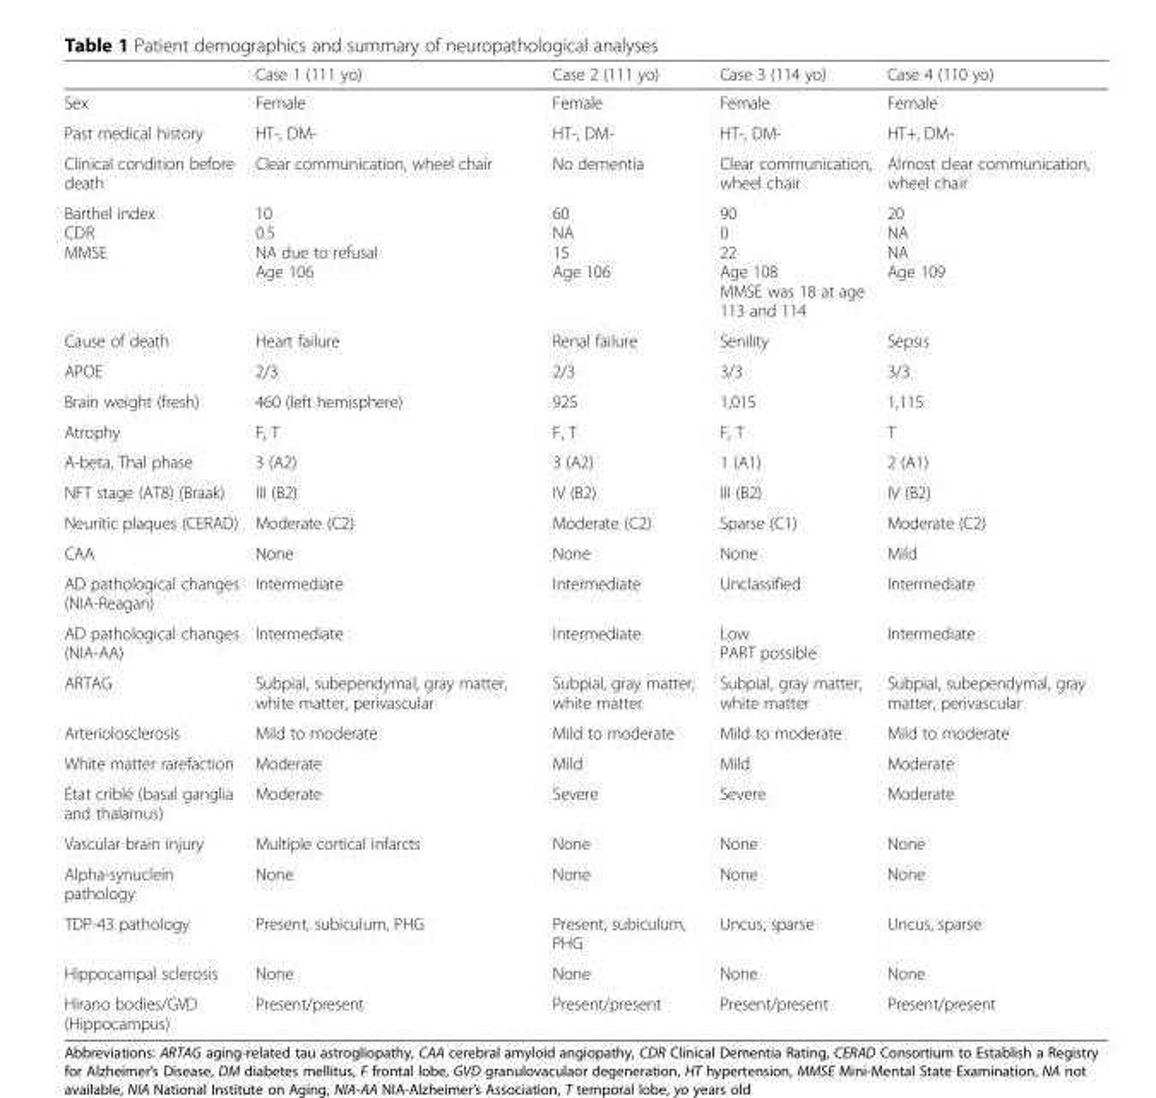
<table><thead><tr><td></td><td>Case 1 (111 yo)</td><td>Case 2 (111 yo)</td><td>Case 3 (114 yo)</td><td>Case 4 (110 yo)</td></tr></thead><tbody><tr><td>Sex</td><td>Female</td><td>Female</td><td>Female</td><td>Female</td></tr><tr><td>Past medical history</td><td>HT-, DM-</td><td>HT-, DM-</td><td>HT-, DM-</td><td>HT+, DM-</td></tr><tr><td>Clinical condition before death</td><td>Clear communication, wheel chair</td><td>No dementia</td><td>Clear communication, wheel chair</td><td>Almost clear communication, wheel chair</td></tr><tr><td>Barthel index CDR MMSE</td><td>10 0.5 NA due to refusal Age 106</td><td>60 NA 15 Age 106</td><td>90 0 22 Age 108 MMSE was 18 at age 113 and 114</td><td>20 NA NA Age 109</td></tr><tr><td>Cause of death</td><td>Heart failure</td><td>Renal failure</td><td>Senility</td><td>Sepsis</td></tr><tr><td>APOE</td><td>2/3</td><td>2/3</td><td>3/3</td><td>3/3</td></tr><tr><td>Brain weight (fresh)</td><td>460 (left hemisphere)</td><td>925</td><td>1,015</td><td>1,115</td></tr><tr><td>Atrophy</td><td>F, T</td><td>F, T</td><td>F, T</td><td>T</td></tr><tr><td>A-beta, Thal phase</td><td>3 (A2)</td><td>3 (A2)</td><td>1 (A1)</td><td>2 (A1)</td></tr><tr><td>NFT stage (AT8) (Braak)</td><td>III (B2)</td><td>IV (B2)</td><td>III (B2)</td><td>IV (B2)</td></tr><tr><td>Neuritic plaques (CERAD)</td><td>Moderate (C2)</td><td>Moderate (C2)</td><td>Sparse (C1)</td><td>Moderate (C2)</td></tr><tr><td>CAA</td><td>None</td><td>None</td><td>None</td><td>Mild</td></tr><tr><td>AD pathological changes (NIA-Reagan)</td><td>Intermediate</td><td>Intermediate</td><td>Unclassified</td><td>Intermediate</td></tr><tr><td>AD pathological changes (NIA-AA)</td><td>Intermediate</td><td>Intermediate</td><td>Low PART possible</td><td>Intermediate</td></tr><tr><td>ARTAG</td><td>Subpial, subependymal, gray matter, white matter, perivascular</td><td>Subpial, gray matter, white matter</td><td>Subpial, gray matter, white matter</td><td>Subpial, subependymal, gray matter, perivascular</td></tr><tr><td>Arteriolosclerosis</td><td>Mild to moderate</td><td>Mild to moderate</td><td>Mild to moderate</td><td>Mild to moderate</td></tr><tr><td>White matter rarefaction</td><td>Moderate</td><td>Mild</td><td>Mild</td><td>Moderate</td></tr><tr><td>État criblé (basal ganglia and thalamus)</td><td>Moderate</td><td>Severe</td><td>Severe</td><td>Moderate</td></tr><tr><td>Vascular brain injury</td><td>Multiple cortical infarcts</td><td>None</td><td>None</td><td>None</td></tr><tr><td>Alpha-synuclein pathology</td><td>None</td><td>None</td><td>None</td><td>None</td></tr><tr><td>TDP-43 pathology</td><td>Present, subiculum, PHG</td><td>Present, subiculum, PHG</td><td>Uncus, sparse</td><td>Uncus, sparse</td></tr><tr><td>Hippocampal sclerosis</td><td>None</td><td>None</td><td>None</td><td>None</td></tr><tr><td>Hirano bodies/GVD (Hippocampus)</td><td>Present/present</td><td>Present/present</td><td>Present/present</td><td>Present/present</td></tr></tbody></table>